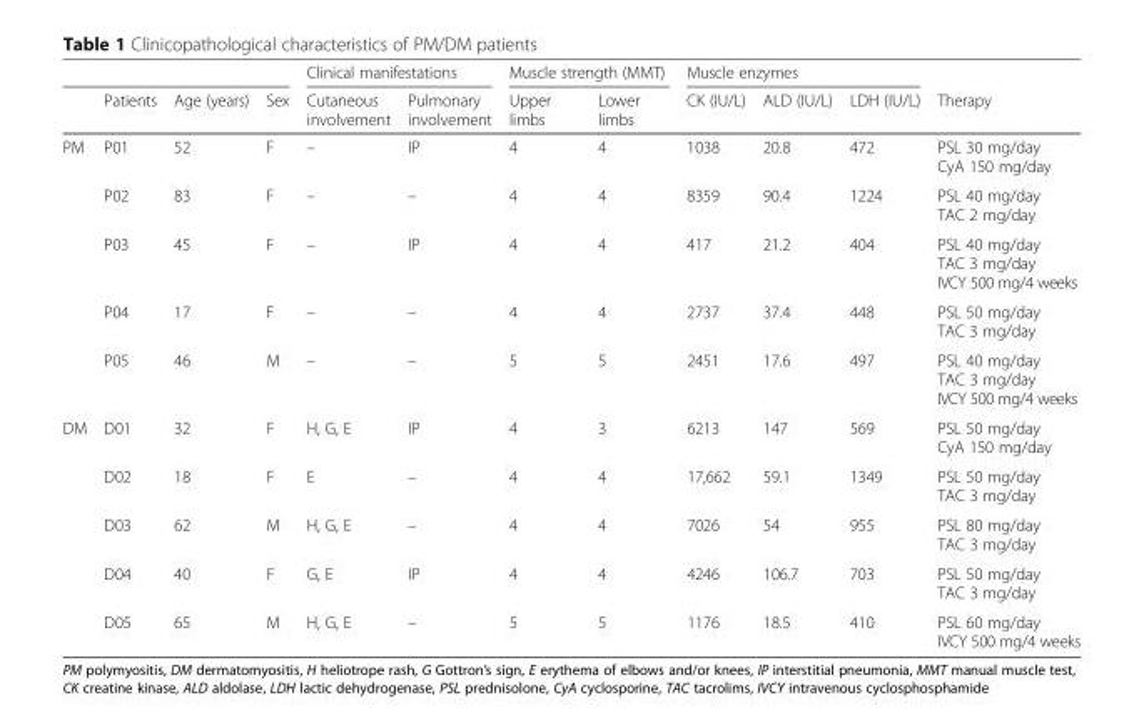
<table><thead><tr><td rowspan="2"></td><td rowspan="2">Patients</td><td rowspan="2">Age (years)</td><td rowspan="2">Sex</td><td colspan="2">Clinical manifestations</td><td colspan="2">Muscle strength (MMT)</td><td colspan="3">Muscle enzymes</td><td rowspan="2">Therapy</td></tr><tr><td>Cutaneous involvement</td><td>Pulmonary involvement</td><td>Upper limbs</td><td>Lower limbs</td><td>CK (IU/L)</td><td>ALD (IU/L)</td><td>LDH (IU/L)</td></tr></thead><tbody><tr><td rowspan="5">PM</td><td>P01</td><td>52</td><td>F</td><td>–</td><td>IP</td><td>4</td><td>4</td><td>1038</td><td>20.8</td><td>472</td><td>PSL 30 mg/day CyA 150 mg/day</td></tr><tr><td>P02</td><td>83</td><td>F</td><td>–</td><td>–</td><td>4</td><td>4</td><td>8359</td><td>90.4</td><td>1224</td><td>PSL 40 mg/day TAC 2 mg/day</td></tr><tr><td>P03</td><td>45</td><td>F</td><td>–</td><td>IP</td><td>4</td><td>4</td><td>417</td><td>21.2</td><td>404</td><td>PSL 40 mg/day TAC 3 mg/day IVCY 500 mg/4 weeks</td></tr><tr><td>P04</td><td>17</td><td>F</td><td>–</td><td>–</td><td>4</td><td>4</td><td>2737</td><td>37.4</td><td>448</td><td>PSL 50 mg/day TAC 3 mg/day</td></tr><tr><td>P05</td><td>46</td><td>M</td><td>–</td><td>–</td><td>5</td><td>5</td><td>2451</td><td>17.6</td><td>497</td><td>PSL 40 mg/day TAC 3 mg/day IVCY 500 mg/4 weeks</td></tr><tr><td rowspan="5">DM</td><td>D01</td><td>32</td><td>F</td><td>H, G, E</td><td>IP</td><td>4</td><td>3</td><td>6213</td><td>147</td><td>569</td><td>PSL 50 mg/day CyA 150 mg/day</td></tr><tr><td>D02</td><td>18</td><td>F</td><td>E</td><td>–</td><td>4</td><td>4</td><td>17,662</td><td>59.1</td><td>1349</td><td>PSL 50 mg/day TAC 3 mg/day</td></tr><tr><td>D03</td><td>62</td><td>M</td><td>H, G, E</td><td>–</td><td>4</td><td>4</td><td>7026</td><td>54</td><td>955</td><td>PSL 80 mg/day TAC 3 mg/day</td></tr><tr><td>D04</td><td>40</td><td>F</td><td>G, E</td><td>IP</td><td>4</td><td>4</td><td>4246</td><td>106.7</td><td>703</td><td>PSL 50 mg/day TAC 3 mg/day</td></tr><tr><td>D05</td><td>65</td><td>M</td><td>H, G, E</td><td>–</td><td>5</td><td>5</td><td>1176</td><td>18.5</td><td>410</td><td>PSL 60 mg/day IVCY 500 mg/4 weeks</td></tr></tbody></table>